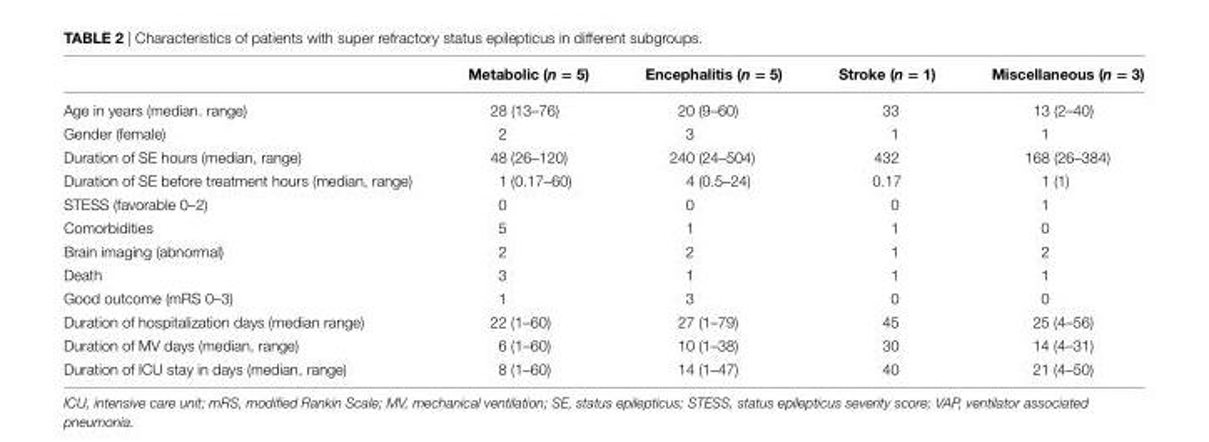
<table><thead><tr><td></td><td>Metabolic (n = 5)</td><td>encephalitis (n = 5)</td><td>stroke (n = 1)</td><td>Miscellaneous (n = 3)</td></tr></thead><tbody><tr><td>Age in years (median. range)</td><td>28 (13–76)</td><td>20 (9–60)</td><td>33</td><td>13 (2–40)</td></tr><tr><td>Gender (female)</td><td>2</td><td>3</td><td>1</td><td>1</td></tr><tr><td>Duration of SE hours (median, range)</td><td>48 (26–120)</td><td>240 (24–504)</td><td>432</td><td>168 (26–384)</td></tr><tr><td>Duration of SE before treatment hours (median, range)</td><td>1 (0.17–60)</td><td>4 (0.5–24)</td><td>0.17</td><td>1 (1)</td></tr><tr><td>STESS (favorable 0–2)</td><td>0</td><td>0</td><td>0</td><td>1</td></tr><tr><td>Comorbidities</td><td>5</td><td>1</td><td>1</td><td>0</td></tr><tr><td>Brain imaging (abnormal)</td><td>2</td><td>2</td><td>1</td><td>2</td></tr><tr><td>Death</td><td>3</td><td>1</td><td>1</td><td>1</td></tr><tr><td>Good outcome (mRS 0–3)</td><td>1</td><td>3</td><td>0</td><td>0</td></tr><tr><td>Duration of hospitalization days (median range)</td><td>22 (1–60)</td><td>27 (1–79)</td><td>45</td><td>25 (4–56)</td></tr><tr><td>Duration of MV days (median, range)</td><td>6 (1–60)</td><td>10 (1–38)</td><td>30</td><td>14 (4–31)</td></tr><tr><td>Duration of ICU stay in days (median, range)</td><td>8 (1–60)</td><td>14 (1–47)</td><td>40</td><td>21 (4–50)</td></tr></tbody></table>